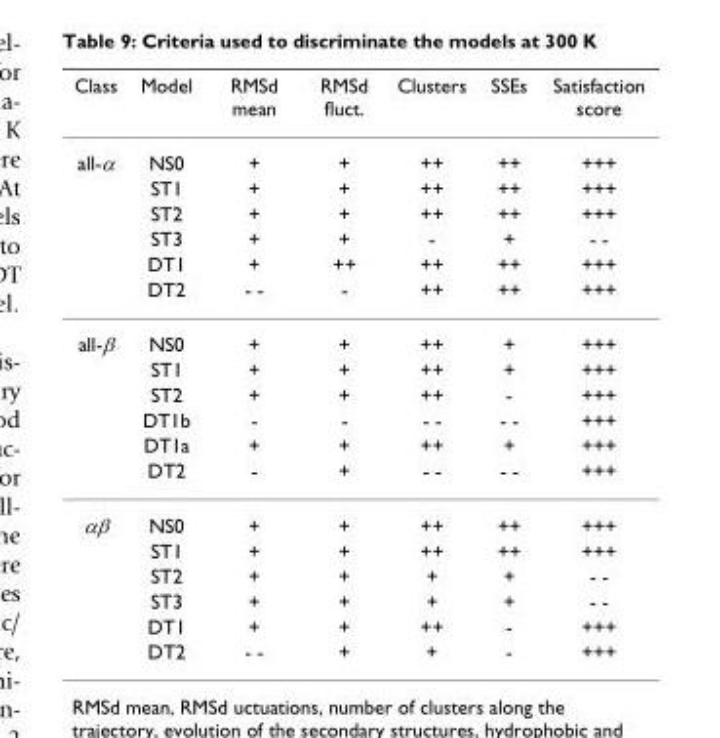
<table><thead><tr><td>Class</td><td>Model</td><td>RMSd mean</td><td>RMSd fluct.</td><td>Clusters</td><td>SSEs</td><td>Satisfaction score</td></tr></thead><tbody><tr><td rowspan="6">all-α</td><td>NS0</td><td>+</td><td>+</td><td>++</td><td>++</td><td>+++</td></tr><tr><td>ST1</td><td>+</td><td>+</td><td>++</td><td>++</td><td>+++</td></tr><tr><td>ST2</td><td>+</td><td>+</td><td>++</td><td>++</td><td>+++</td></tr><tr><td>ST3</td><td>+</td><td>+</td><td>-</td><td>+</td><td>- -</td></tr><tr><td>DT1</td><td>+</td><td>++</td><td>++</td><td>++</td><td>+++</td></tr><tr><td>DT2</td><td>- -</td><td>-</td><td>++</td><td>++</td><td>+++</td></tr><tr><td rowspan="6">all-β</td><td>NS0</td><td>+</td><td>+</td><td>++</td><td>+</td><td>+++</td></tr><tr><td>ST1</td><td>+</td><td>+</td><td>++</td><td>+</td><td>+++</td></tr><tr><td>ST2</td><td>+</td><td>+</td><td>++</td><td>-</td><td>+++</td></tr><tr><td>DT1b</td><td>-</td><td>-</td><td>- -</td><td>- -</td><td>+++</td></tr><tr><td>DT1a</td><td>+</td><td>+</td><td>++</td><td>+</td><td>+++</td></tr><tr><td>DT2</td><td>-</td><td>+</td><td>- -</td><td>- -</td><td>+++</td></tr><tr><td rowspan="6">αβ</td><td>NS0</td><td>+</td><td>+</td><td>++</td><td>++</td><td>+++</td></tr><tr><td>ST1</td><td>+</td><td>+</td><td>++</td><td>++</td><td>+++</td></tr><tr><td>ST2</td><td>+</td><td>+</td><td>+</td><td>+</td><td>- -</td></tr><tr><td>ST3</td><td>+</td><td>+</td><td>+</td><td>+</td><td>- -</td></tr><tr><td>DT1</td><td>+</td><td>+</td><td>++</td><td>-</td><td>+++</td></tr><tr><td>DT2</td><td>- -</td><td>+</td><td>+</td><td>-</td><td>+++</td></tr></tbody></table>